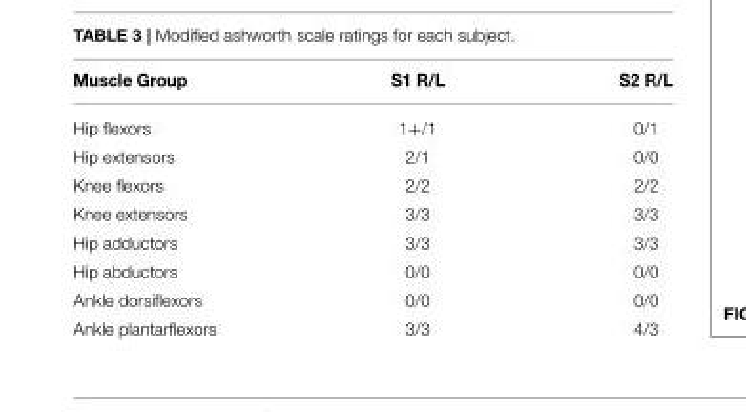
<table><thead><tr><td>Muscle Group</td><td>S1 R/L</td><td>S2 R/L</td></tr></thead><tbody><tr><td>Hip flexors</td><td>1+/1</td><td>0/1</td></tr><tr><td>Hip extensors</td><td>2/1</td><td>0/0</td></tr><tr><td>Knee flexors</td><td>2/2</td><td>2/2</td></tr><tr><td>Knee extensors</td><td>3/3</td><td>3/3</td></tr><tr><td>Hip adductors</td><td>3/3</td><td>3/3</td></tr><tr><td>Hip abductors</td><td>0/0</td><td>0/0</td></tr><tr><td>Ankle dorsiflexors</td><td>0/0</td><td>0/0</td></tr><tr><td>Ankle plantarflexors</td><td>3/3</td><td>4/3</td></tr></tbody></table>